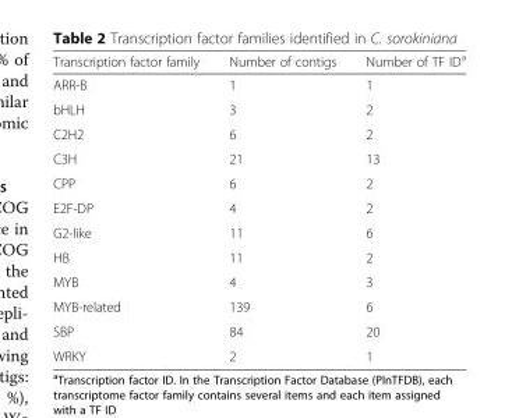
<table><thead><tr><td>Transcription factor family</td><td>Number of contigs</td><td>Number of TF ID<sup>a</sup></td></tr></thead><tbody><tr><td>ARR-B</td><td>1</td><td>1</td></tr><tr><td>bHLH</td><td>3</td><td>2</td></tr><tr><td>C2H2</td><td>6</td><td>2</td></tr><tr><td>C3H</td><td>21</td><td>13</td></tr><tr><td>CPP</td><td>6</td><td>2</td></tr><tr><td>E2F-DP</td><td>4</td><td>2</td></tr><tr><td>G2-like</td><td>11</td><td>6</td></tr><tr><td>HB</td><td>11</td><td>2</td></tr><tr><td>MYB</td><td>4</td><td>3</td></tr><tr><td>MYB-related</td><td>139</td><td>6</td></tr><tr><td>SBP</td><td>84</td><td>20</td></tr><tr><td>WRKY</td><td>2</td><td>1</td></tr></tbody></table>